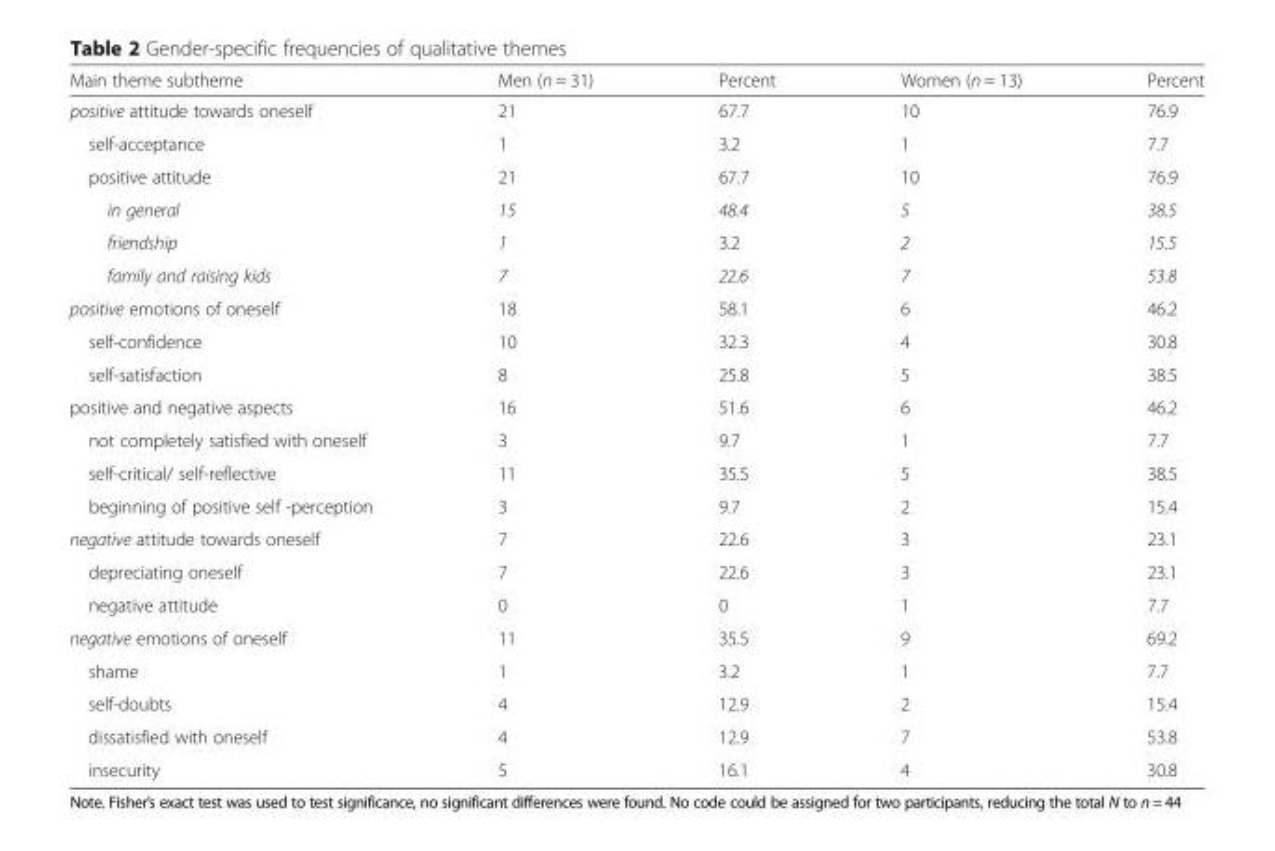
<table><thead><tr><td>Main theme subtheme</td><td>Men (n = 31)</td><td>Percent</td><td>Women (n = 13)</td><td>Percent</td></tr></thead><tbody><tr><td>positive attitude towards oneself</td><td>21</td><td>67.7</td><td>10</td><td>76.9</td></tr><tr><td>self-acceptance</td><td>1</td><td>3.2</td><td>1</td><td>7.7</td></tr><tr><td>positive attitude</td><td>21</td><td>67.7</td><td>10</td><td>76.9</td></tr><tr><td>in general</td><td>15</td><td>48.4</td><td>5</td><td>38.5</td></tr><tr><td>friendship</td><td>1</td><td>3.2</td><td>2</td><td>15.5</td></tr><tr><td>family and raising kids</td><td>7</td><td>22.6</td><td>7</td><td>53.8</td></tr><tr><td>positive emotions of oneself</td><td>18</td><td>58.1</td><td>6</td><td>46.2</td></tr><tr><td>self-confidence</td><td>10</td><td>32.3</td><td>4</td><td>30.8</td></tr><tr><td>self-satisfaction</td><td>8</td><td>25.8</td><td>5</td><td>38.5</td></tr><tr><td>positive and negative aspects</td><td>16</td><td>51.6</td><td>6</td><td>46.2</td></tr><tr><td>not completely satisfied with oneself</td><td>3</td><td>9.7</td><td>1</td><td>7.7</td></tr><tr><td>self-critical/ self-reflective</td><td>11</td><td>35.5</td><td>5</td><td>38.5</td></tr><tr><td>beginning of positive self -perception</td><td>3</td><td>9.7</td><td>2</td><td>15.4</td></tr><tr><td>negative attitude towards oneself</td><td>7</td><td>22.6</td><td>3</td><td>23.1</td></tr><tr><td>depreciating oneself</td><td>7</td><td>22.6</td><td>3</td><td>23.1</td></tr><tr><td>negative attitude</td><td>0</td><td>0</td><td>1</td><td>7.7</td></tr><tr><td>negative emotions of oneself</td><td>11</td><td>35.5</td><td>9</td><td>69.2</td></tr><tr><td>shame</td><td>1</td><td>3.2</td><td>1</td><td>7.7</td></tr><tr><td>self-doubts</td><td>4</td><td>12.9</td><td>2</td><td>15.4</td></tr><tr><td>dissatisfied with oneself</td><td>4</td><td>12.9</td><td>7</td><td>53.8</td></tr><tr><td>insecurity</td><td>5</td><td>16.1</td><td>4</td><td>30.8</td></tr></tbody></table>